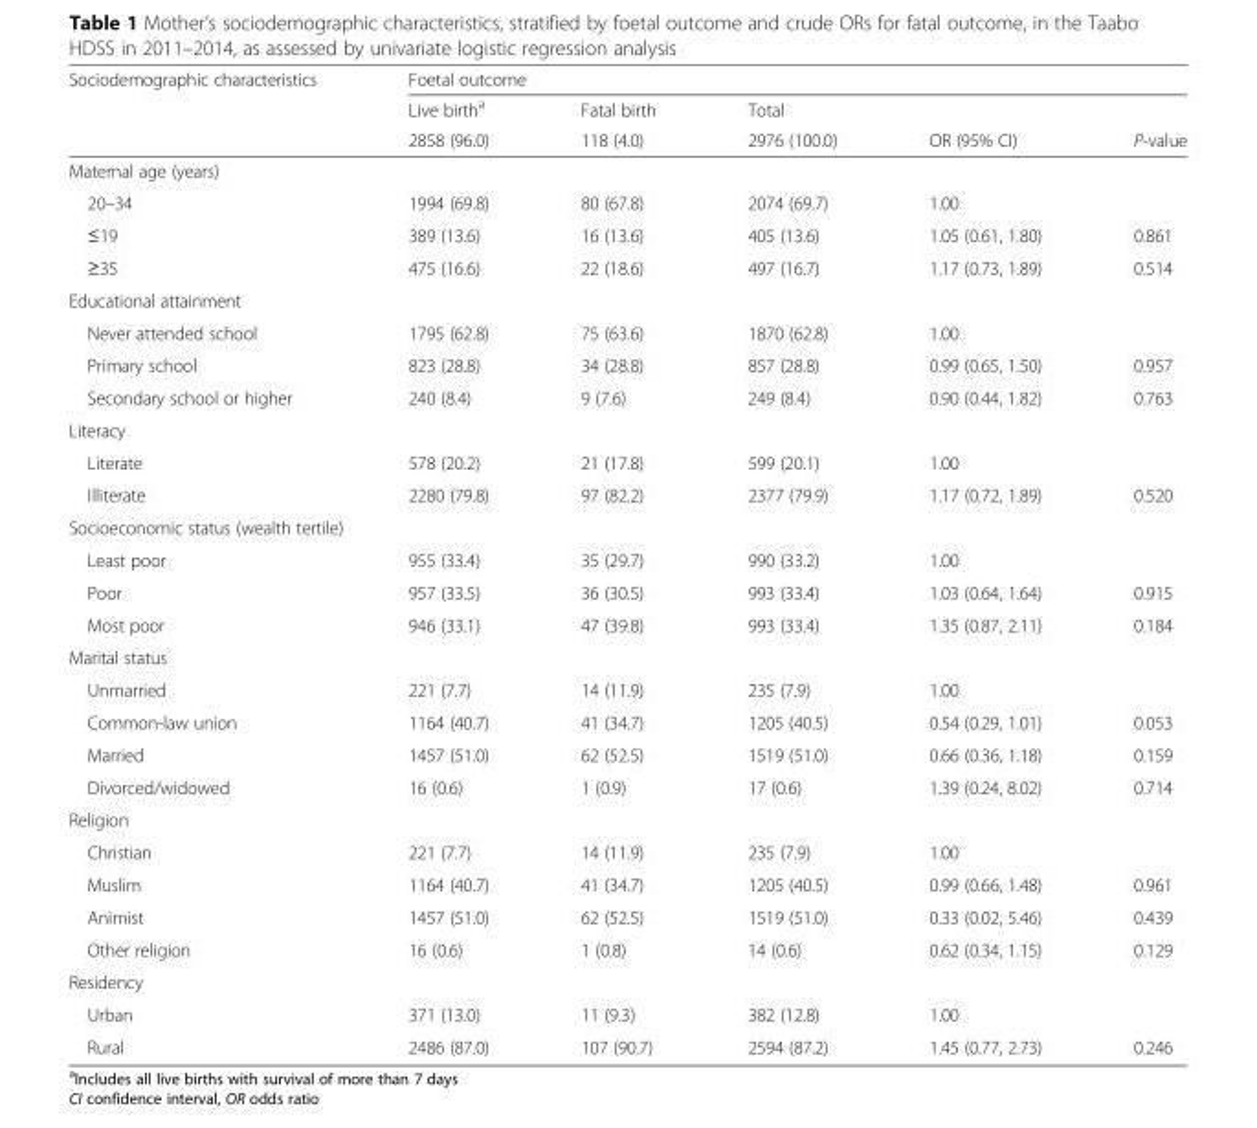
<table><thead><tr><td rowspan="3">Sociodemographic characteristics</td><td colspan="5">Foetal outcome</td></tr><tr><td rowspan="2">Live birth<sup>a</sup> 2858 (96.0)</td><td rowspan="2">Fatal birth 118 (4.0)</td><td rowspan="2">Total 2976 (100.0)</td><td rowspan="2">OR (95% CI)</td><td rowspan="2">P-value</td></tr><tr></tr></thead><tbody><tr><td colspan="6">Maternal age (years)</td></tr><tr><td>20–34</td><td>1994 (69.8)</td><td>80 (67.8)</td><td>2074 (69.7)</td><td colspan="2">1.00</td></tr><tr><td>≤19</td><td>389 (13.6)</td><td>16 (13.6)</td><td>405 (13.6)</td><td>1.05 (0.61, 1.80)</td><td>0.861</td></tr><tr><td>≥35</td><td>475 (16.6)</td><td>22 (18.6)</td><td>497 (16.7)</td><td>1.17 (0.73, 1.89)</td><td>0.514</td></tr><tr><td colspan="6">Educational attainment</td></tr><tr><td>Never attended school</td><td>1795 (62.8)</td><td>75 (63.6)</td><td>1870 (62.8)</td><td colspan="2">1.00</td></tr><tr><td>Primary school</td><td>823 (28.8)</td><td>34 (28.8)</td><td>857 (28.8)</td><td>0.99 (0.65, 1.50)</td><td>0.957</td></tr><tr><td>Secondary school or higher</td><td>240 (8.4)</td><td>9 (7.6)</td><td>249 (8.4)</td><td>0.90 (0.44, 1.82)</td><td>0.763</td></tr><tr><td colspan="6">Literacy</td></tr><tr><td>Literate</td><td>578 (20.2)</td><td>21 (17.8)</td><td>599 (20.1)</td><td colspan="2">1.00</td></tr><tr><td>Illiterate</td><td>2280 (79.8)</td><td>97 (82.2)</td><td>2377 (79.9)</td><td>1.17 (0.72, 1.89)</td><td>0.520</td></tr><tr><td colspan="6">Socioeconomic status (wealth tertile)</td></tr><tr><td>Least poor</td><td>955 (33.4)</td><td>35 (29.7)</td><td>990 (33.2)</td><td colspan="2">1.00</td></tr><tr><td>Poor</td><td>957 (33.5)</td><td>36 (30.5)</td><td>993 (33.4)</td><td>1.03 (0.64, 1.64)</td><td>0.915</td></tr><tr><td>Most poor</td><td>946 (33.1)</td><td>47 (39.8)</td><td>993 (33.4)</td><td>1.35 (0.87, 2.11)</td><td>0.184</td></tr><tr><td colspan="6">Marital status</td></tr><tr><td>Unmarried</td><td>221 (7.7)</td><td>14 (11.9)</td><td>235 (7.9)</td><td colspan="2">1.00</td></tr><tr><td>Common-law union</td><td>1164 (40.7)</td><td>41 (34.7)</td><td>1205 (40.5)</td><td>0.54 (0.29, 1.01)</td><td>0.053</td></tr><tr><td>Married</td><td>1457 (51.0)</td><td>62 (52.5)</td><td>1519 (51.0)</td><td>0.66 (0.36, 1.18)</td><td>0.159</td></tr><tr><td>Divorced/widowed</td><td>16 (0.6)</td><td>1 (0.9)</td><td>17 (0.6)</td><td>1.39 (0.24, 8.02)</td><td>0.714</td></tr><tr><td colspan="6">Religion</td></tr><tr><td>Christian</td><td>221 (7.7)</td><td>14 (11.9)</td><td>235 (7.9)</td><td colspan="2">1.00</td></tr><tr><td>Muslim</td><td>1164 (40.7)</td><td>41 (34.7)</td><td>1205 (40.5)</td><td>0.99 (0.66, 1.48)</td><td>0.961</td></tr><tr><td>Animist</td><td>1457 (51.0)</td><td>62 (52.5)</td><td>1519 (51.0)</td><td>0.33 (0.02, 5.46)</td><td>0.439</td></tr><tr><td>Other religion</td><td>16 (0.6)</td><td>1 (0.8)</td><td>14 (0.6)</td><td>0.62 (0.34, 1.15)</td><td>0.129</td></tr><tr><td colspan="6">Residency</td></tr><tr><td>Urban</td><td>371 (13.0)</td><td>11 (9.3)</td><td>382 (12.8)</td><td colspan="2">1.00</td></tr><tr><td>Rural</td><td>2486 (87.0)</td><td>107 (90.7)</td><td>2594 (87.2)</td><td>1.45 (0.77, 2.73)</td><td>0.246</td></tr></tbody></table>